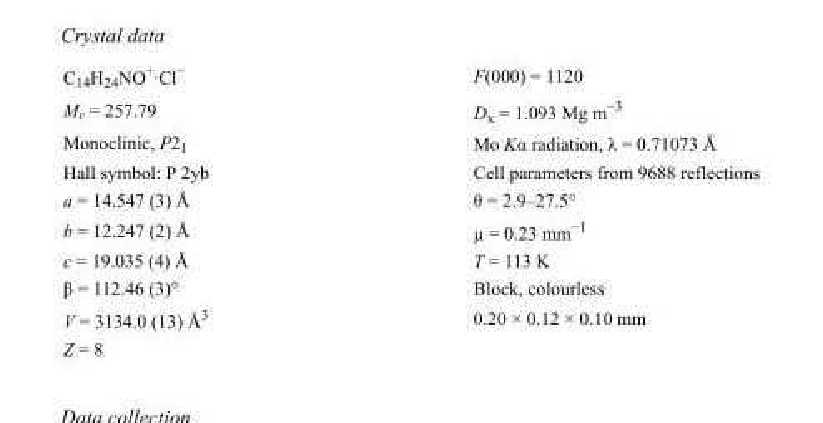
<table><tbody><tr><td>C<sub>14</sub>H<sub>24</sub>NO<sup>+</sup>·Cl<sup>−</sup></td><td>F(000) = 1120</td></tr><tr><td>M<sub>r</sub> = 257.79</td><td>D<sub>x</sub> = 1.093 Mg m<sup>−3</sup></td></tr><tr><td>Monoclinic, P2<sub>1</sub></td><td>Mo Kα radiation, λ = 0.71073 Å</td></tr><tr><td>Hall symbol: P 2yb</td><td>Cell parameters from 9688 reflections</td></tr><tr><td>a = 14.547 (3) Å</td><td>θ = 2.9–27.5°</td></tr><tr><td>b = 12.247 (2) Å</td><td>µ = 0.23 mm<sup>−1</sup></td></tr><tr><td>c = 19.035 (4) Å</td><td>T = 113 K</td></tr><tr><td>β = 112.46 (3)°</td><td>Block, colourless</td></tr><tr><td>V = 3134.0 (13) Å<sup>3</sup></td><td>0.20 × 0.12 × 0.10 mm</td></tr><tr><td>Z = 8</td><td></td></tr></tbody></table>